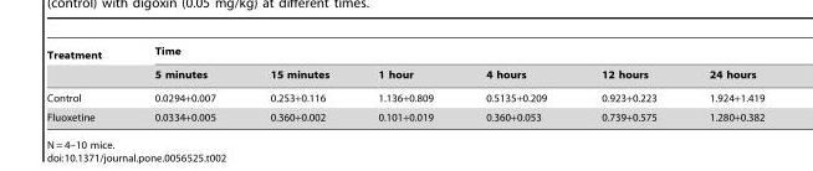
<table><thead><tr><td rowspan="2">Treatment</td><td colspan="6">Time</td></tr><tr><td>5 minutes</td><td>15 minutes</td><td>1 hour</td><td>4 hours</td><td>12 hours</td><td>24 hours</td></tr></thead><tbody><tr><td>Control</td><td>0.0294+0.007</td><td>0.253+0.116</td><td>1.136+0.809</td><td>0.5135+0.209</td><td>0.923+0.223</td><td>1.924+1.419</td></tr><tr><td>Fluoxetine</td><td>0.0334+0.005</td><td>0.360+0.002</td><td>0.101+0.019</td><td>0.360+0.053</td><td>0.739+0.575</td><td>1.280+0.382</td></tr></tbody></table>